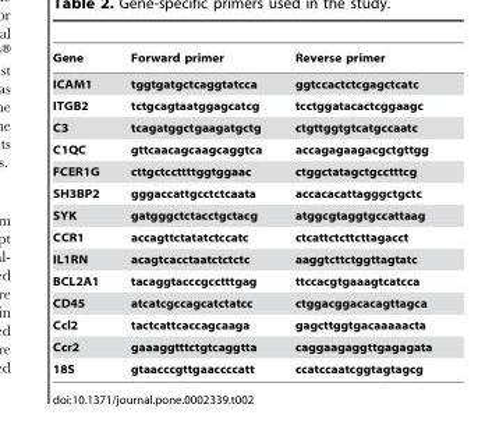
<table><thead><tr><td>Gene</td><td>Forward primer</td><td>Reverse primer</td></tr></thead><tbody><tr><td>ICAM1</td><td>tggtgatgctcaggtatcca</td><td>ggtccactctcgagctcatc</td></tr><tr><td>ITGB2</td><td>tctgcagtaatggagcatcg</td><td>tcctggatacactcggaagc</td></tr><tr><td>C3</td><td>tcagatggctgaagatgctg</td><td>ctgttggtgtcatgccaatc</td></tr><tr><td>C1QC</td><td>gttcaacagcaagcaggtca</td><td>accagagaagacgctgttgg</td></tr><tr><td>FCER1G</td><td>cttgctccttttggtggaac</td><td>ctggctatagctgcctttcg</td></tr><tr><td>SH3BP2</td><td>gggaccattgcctctcaata</td><td>accacacattagggctgctc</td></tr><tr><td>SYK</td><td>gatgggctctacctgctacg</td><td>atggcgtaggtgccattaag</td></tr><tr><td>CCR1</td><td>accagttctatatctccatc</td><td>ctcattctcttcttagacct</td></tr><tr><td>IL1RN</td><td>acagtcacctaatctctctc</td><td>aaggtcttctggttagtatc</td></tr><tr><td>BCL2A1</td><td>tacaggtacccgcctttgag</td><td>ttccacgtgaaagtcatcca</td></tr><tr><td>CD45</td><td>atcatcgccagcatctatcc</td><td>ctggacggacacagttagca</td></tr><tr><td>Ccl2</td><td>tactcattcaccagcaaga</td><td>gagcttggtgacaaaaacta</td></tr><tr><td>Ccr2</td><td>gaaaggtttctgtcaggtta</td><td>caggaagaggttgagagata</td></tr><tr><td>18S</td><td>gtaacccgttgaaccccatt</td><td>ccatccaatcggtagtagcg</td></tr></tbody></table>